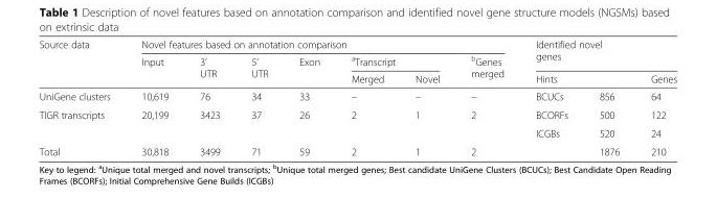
<table><thead><tr><td rowspan="4">Source data UniGene clusters</td><td colspan="7">Novel features based on annotation comparison</td><td rowspan="2" colspan="3">Identified novel genes</td></tr><tr><td rowspan="3">Input 10,619</td><td rowspan="3">3’ UTR 76</td><td rowspan="3">5’ UTR 34</td><td rowspan="3">Exon 33</td><td colspan="2"><sup>a</sup>Transcript</td><td rowspan="3"><sup>b</sup>Genes merged –</td></tr><tr><td rowspan="2">Merged –</td><td rowspan="2">Novel –</td><td colspan="2">Hints</td><td rowspan="2">Genes 64</td></tr><tr><td>BCUCs</td><td>856</td></tr></thead><tbody><tr><td rowspan="2">TIGR transcripts</td><td rowspan="2">20,199</td><td rowspan="2">3423</td><td rowspan="2">37</td><td rowspan="2">26</td><td rowspan="2">2</td><td rowspan="2">1</td><td rowspan="2">2</td><td>BCORFs</td><td>500</td><td>122</td></tr><tr><td>ICGBs</td><td>520</td><td>24</td></tr><tr><td>Total</td><td>30,818</td><td>3499</td><td>71</td><td>59</td><td>2</td><td>1</td><td>2</td><td></td><td>1876</td><td>210</td></tr></tbody></table>